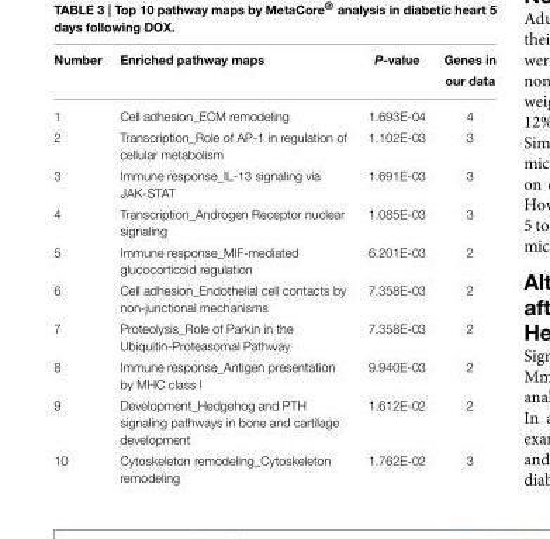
<table><thead><tr><td>Number</td><td>Enriched pathway maps</td><td>P-value</td><td>Genes in our data</td></tr></thead><tbody><tr><td>1</td><td>Cell adhesion_ECM remodeling</td><td>1.693E-04</td><td>4</td></tr><tr><td>2</td><td>Transcription_Role of AP-1 in regulation of cellular metabolism</td><td>1.102E-03</td><td>3</td></tr><tr><td>3</td><td>Immune response_IL-13 signaling via JAK-STAT</td><td>1.691E-03</td><td>3</td></tr><tr><td>4</td><td>Transcription_Androgen Receptor nuclear signaling</td><td>1.085E-03</td><td>3</td></tr><tr><td>5</td><td>Immune response_MIF-mediated glucocorticoid regulation</td><td>6.201E-03</td><td>2</td></tr><tr><td>6</td><td>Cell adhesion_Endothelial cell contacts by non-junctional mechanisms</td><td>7.358E-03</td><td>2</td></tr><tr><td>7</td><td>Proteolysis_Role of Parkin in the Ubiquitin-Proteasomal Pathway</td><td>7.358E-03</td><td>2</td></tr><tr><td>8</td><td>Immune response_Antigen presentation by MHC class I</td><td>9.940E-03</td><td>2</td></tr><tr><td>9</td><td>Development_Hedgehog and PTH signaling pathways in bone and cartilage development</td><td>1.612E-02</td><td>2</td></tr><tr><td>10</td><td>Cytoskeleton remodeling_Cytoskeleton remodeling</td><td>1.762E-02</td><td>3</td></tr></tbody></table>